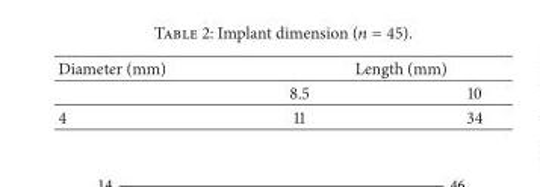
<table><thead><tr><td rowspan="2">Diameter (mm)</td><td colspan="2">Length (mm)</td></tr><tr><td>8.5</td><td>10</td></tr></thead><tbody><tr><td>4</td><td>11</td><td>34</td></tr></tbody></table>